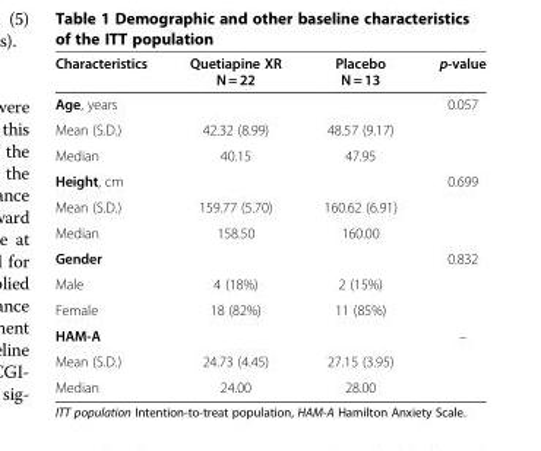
<table><thead><tr><td>Characteristics</td><td>Quetiapine XR N = 22</td><td>Placebo N = 13</td><td>p-value</td></tr></thead><tbody><tr><td>Age, years</td><td></td><td></td><td>0.057</td></tr><tr><td>Mean (S.D.)</td><td>42.32 (8.99)</td><td>48.57 (9.17)</td><td></td></tr><tr><td>Median</td><td>40.15</td><td>47.95</td><td></td></tr><tr><td>Height, cm</td><td></td><td></td><td>0.699</td></tr><tr><td>Mean (S.D.)</td><td>159.77 (5.70)</td><td>160.62 (6.91)</td><td></td></tr><tr><td>Median</td><td>158.50</td><td>160.00</td><td></td></tr><tr><td>Gender</td><td></td><td></td><td>0.832</td></tr><tr><td>Male</td><td>4 (18%)</td><td>2 (15%)</td><td></td></tr><tr><td>Female</td><td>18 (82%)</td><td>11 (85%)</td><td></td></tr><tr><td>HAM-A</td><td></td><td></td><td>–</td></tr><tr><td>Mean (S.D.)</td><td>24.73 (4.45)</td><td>27.15 (3.95)</td><td></td></tr><tr><td>Median</td><td>24.00</td><td>28.00</td><td></td></tr></tbody></table>